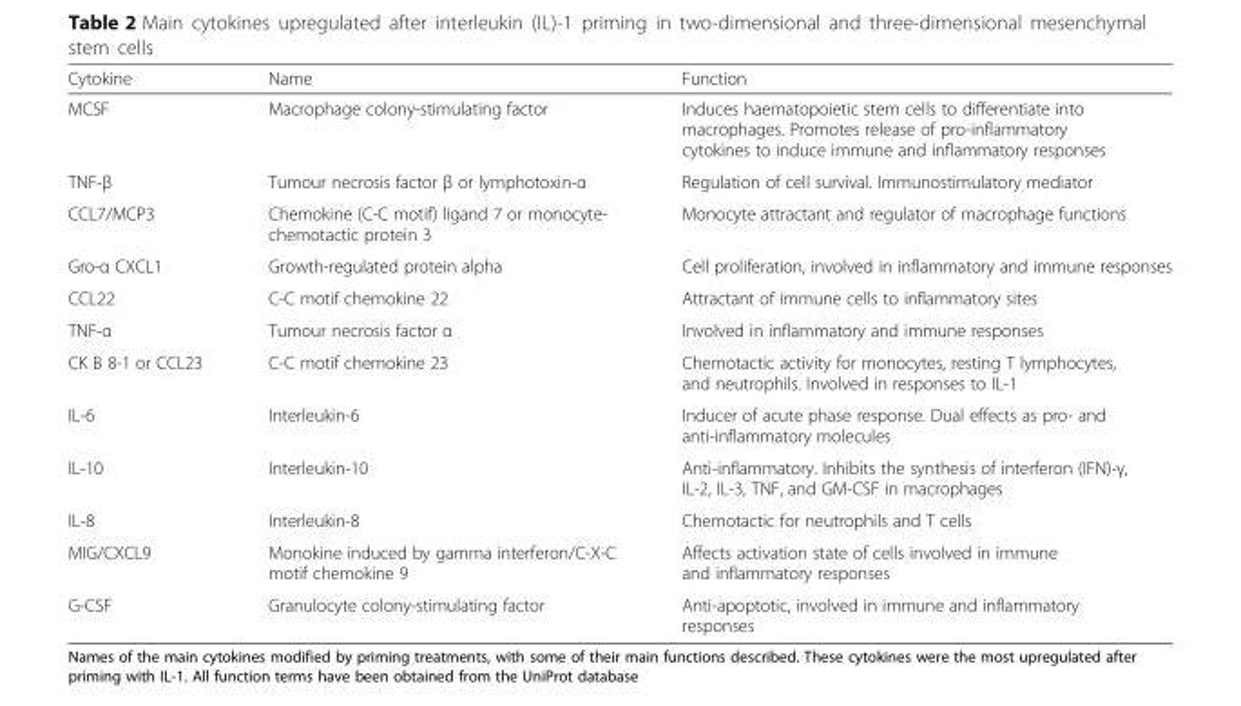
<table><thead><tr><td>Cytokine</td><td>Name</td><td>Function</td></tr></thead><tbody><tr><td>MCSF</td><td>Macrophage colony-stimulating factor</td><td>Induces haematopoietic stem cells to differentiate into macrophages. Promotes release of pro-inflammatory cytokines to induce immune and inflammatory responses</td></tr><tr><td>TNF-β</td><td>Tumour necrosis factor β or lymphotoxin-α</td><td>Regulation of cell survival. Immunostimulatory mediator</td></tr><tr><td>CCL7/MCP3</td><td>Chemokine (C-C motif) ligand 7 or monocyte- chemotactic protein 3</td><td>Monocyte attractant and regulator of macrophage functions</td></tr><tr><td>Gro-α CXCL1</td><td>Growth-regulated protein alpha</td><td>Cell proliferation, involved in inflammatory and immune responses</td></tr><tr><td>CCL22</td><td>C-C motif chemokine 22</td><td>Attractant of immune cells to inflammatory sites</td></tr><tr><td>TNF-α</td><td>Tumour necrosis factor α</td><td>Involved in inflammatory and immune responses</td></tr><tr><td>CK B 8-1 or CCL23</td><td>C-C motif chemokine 23</td><td>Chemotactic activity for monocytes, resting T lymphocytes, and neutrophils. Involved in responses to IL-1</td></tr><tr><td>IL-6</td><td>Interleukin-6</td><td>Inducer of acute phase response. Dual effects as pro- and anti-inflammatory molecules</td></tr><tr><td>IL-10</td><td>Interleukin-10</td><td>Anti-inflammatory. Inhibits the synthesis of interferon (IFN)-γ, IL-2, IL-3, TNF, and GM-CSF in macrophages</td></tr><tr><td>IL-8</td><td>Interleukin-8</td><td>Chemotactic for neutrophils and T cells</td></tr><tr><td>MIG/CXCL9</td><td>Monokine induced by gamma interferon/C-X-C motif chemokine 9</td><td>Affects activation state of cells involved in immune and inflammatory responses</td></tr><tr><td>G-CSF</td><td>Granulocyte colony-stimulating factor</td><td>Anti-apoptotic, involved in immune and inflammatory responses</td></tr></tbody></table>